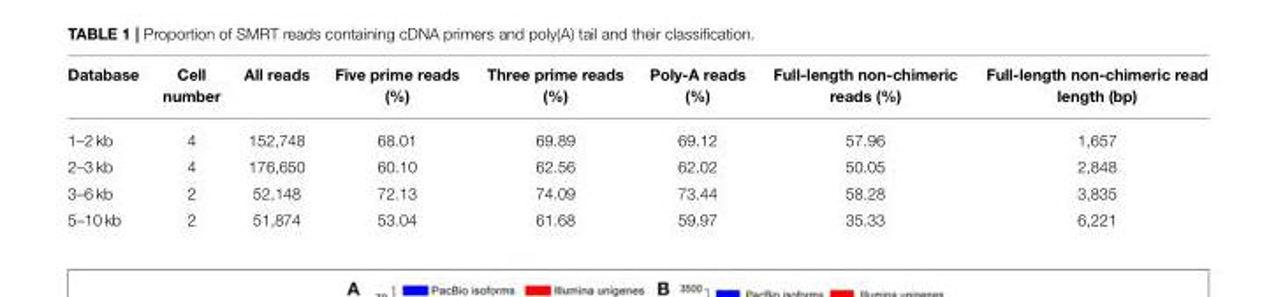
<table><thead><tr><td>Database</td><td>Cell number</td><td>All reads</td><td>Five prime reads (%)</td><td>Three prime reads (%)</td><td>Poly-A reads (%)</td><td>Full-length non-chimeric reads (%)</td><td>Full-length non-chimeric read length (bp)</td></tr></thead><tbody><tr><td>1–2 kb</td><td>4</td><td>152,748</td><td>68.01</td><td>69.89</td><td>69.12</td><td>57.96</td><td>1,657</td></tr><tr><td>2–3 kb</td><td>4</td><td>176,650</td><td>60.10</td><td>62.56</td><td>62.02</td><td>50.05</td><td>2,848</td></tr><tr><td>3–6 kb</td><td>2</td><td>52,148</td><td>72.13</td><td>74.09</td><td>73.44</td><td>58.28</td><td>3,835</td></tr><tr><td>5–10 kb</td><td>2</td><td>51,874</td><td>53.04</td><td>61.68</td><td>59.97</td><td>35.33</td><td>6,221</td></tr></tbody></table>